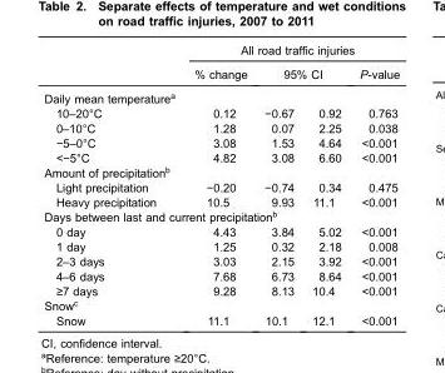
<table><thead><tr><td rowspan="3">Daily mean temperature<sup>a</sup></td><td colspan="4">All road traffic injuries</td></tr><tr><td rowspan="2">% change</td><td colspan="2">95% CI</td><td rowspan="2">P-value</td></tr><tr><td></td><td></td></tr></thead><tbody><tr><td>10–20°C</td><td>0.12</td><td>−0.67</td><td>0.92</td><td>0.763</td></tr><tr><td>0–10°C</td><td>1.28</td><td>0.07</td><td>2.25</td><td>0.038</td></tr><tr><td>−5–0°C</td><td>3.08</td><td>1.53</td><td>4.64</td><td>&lt;0.001</td></tr><tr><td>&lt;−5°C</td><td>4.82</td><td>3.08</td><td>6.60</td><td>&lt;0.001</td></tr><tr><td colspan="5">Amount of precipitation<sup>b</sup></td></tr><tr><td>Light precipitation</td><td>−0.20</td><td>−0.74</td><td>0.34</td><td>0.475</td></tr><tr><td>Heavy precipitation</td><td>10.5</td><td>9.93</td><td>11.1</td><td>&lt;0.001</td></tr><tr><td colspan="5">Days between last and current precipitation<sup>b</sup></td></tr><tr><td>0 day</td><td>4.43</td><td>3.84</td><td>5.02</td><td>&lt;0.001</td></tr><tr><td>1 day</td><td>1.25</td><td>0.32</td><td>2.18</td><td>0.008</td></tr><tr><td>2–3 days</td><td>3.03</td><td>2.15</td><td>3.92</td><td>&lt;0.001</td></tr><tr><td>4–6 days</td><td>7.68</td><td>6.73</td><td>8.64</td><td>&lt;0.001</td></tr><tr><td>≥7 days</td><td>9.28</td><td>8.13</td><td>10.4</td><td>&lt;0.001</td></tr><tr><td colspan="5">Snow<sup>c</sup></td></tr><tr><td>Snow</td><td>11.1</td><td>10.1</td><td>12.1</td><td>&lt;0.001</td></tr></tbody></table>